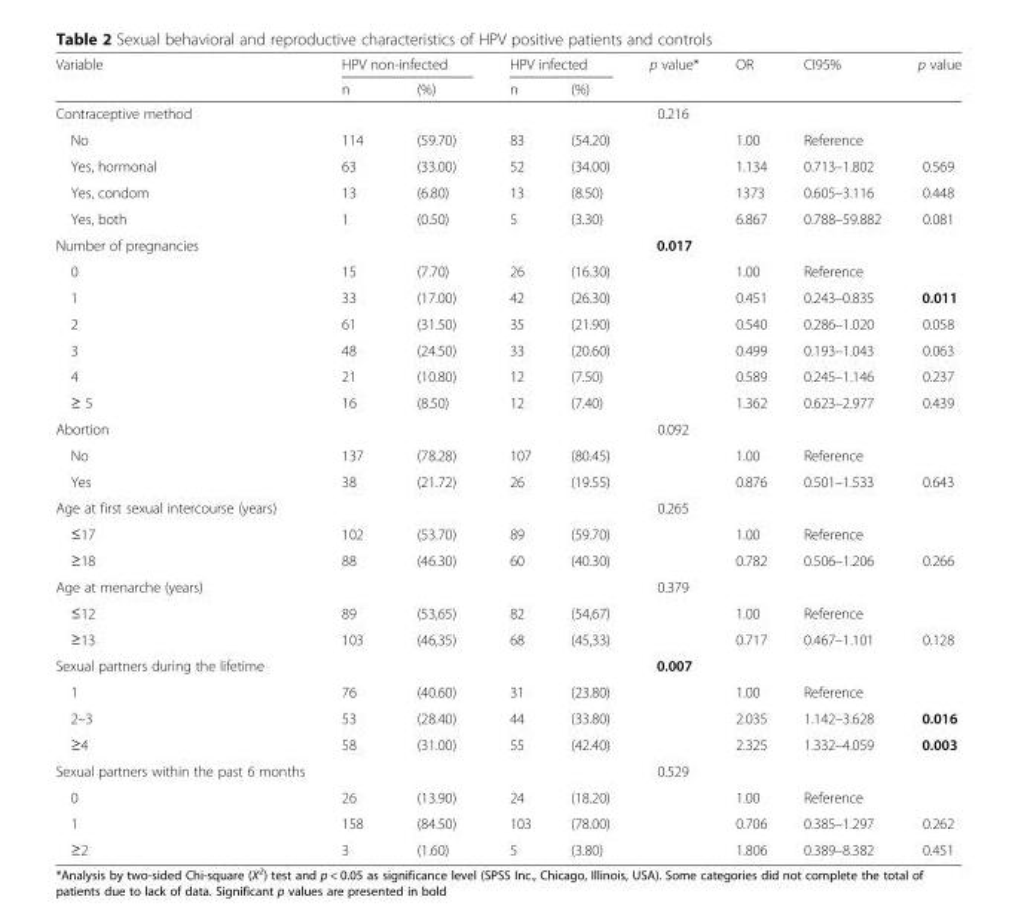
<table><thead><tr><td rowspan="2">Variable</td><td colspan="2">HPV non-infected</td><td colspan="2">HPV infected</td><td rowspan="2">p value*</td><td rowspan="2">OR</td><td rowspan="2">CI95%</td><td rowspan="2">p value</td></tr><tr><td>n</td><td>(%)</td><td>n</td><td>(%)</td></tr></thead><tbody><tr><td>Contraceptive method</td><td></td><td></td><td></td><td></td><td>0.216</td><td></td><td></td><td></td></tr><tr><td>No</td><td>114</td><td>(59.70)</td><td>83</td><td>(54.20)</td><td></td><td>1.00</td><td>Reference</td><td></td></tr><tr><td>Yes, hormonal</td><td>63</td><td>(33.00)</td><td>52</td><td>(34.00)</td><td></td><td>1.134</td><td>0.713–1.802</td><td>0.569</td></tr><tr><td>Yes, condom</td><td>13</td><td>(6.80)</td><td>13</td><td>(8.50)</td><td></td><td>1373</td><td>0.605–3.116</td><td>0.448</td></tr><tr><td>Yes, both</td><td>1</td><td>(0.50)</td><td>5</td><td>(3.30)</td><td></td><td>6.867</td><td>0.788–59.882</td><td>0.081</td></tr><tr><td>Number of pregnancies</td><td></td><td></td><td></td><td></td><td>0.017</td><td></td><td></td><td></td></tr><tr><td>0</td><td>15</td><td>(7.70)</td><td>26</td><td>(16.30)</td><td></td><td>1.00</td><td>Reference</td><td></td></tr><tr><td>1</td><td>33</td><td>(17.00)</td><td>42</td><td>(26.30)</td><td></td><td>0.451</td><td>0.243–0.835</td><td>0.011</td></tr><tr><td>2</td><td>61</td><td>(31.50)</td><td>35</td><td>(21.90)</td><td></td><td>0.540</td><td>0.286–1.020</td><td>0.058</td></tr><tr><td>3</td><td>48</td><td>(24.50)</td><td>33</td><td>(20.60)</td><td></td><td>0.499</td><td>0.193–1.043</td><td>0.063</td></tr><tr><td>4</td><td>21</td><td>(10.80)</td><td>12</td><td>(7.50)</td><td></td><td>0.589</td><td>0.245–1.146</td><td>0.237</td></tr><tr><td>≥ 5</td><td>16</td><td>(8.50)</td><td>12</td><td>(7.40)</td><td></td><td>1.362</td><td>0.623–2.977</td><td>0.439</td></tr><tr><td>Abortion</td><td></td><td></td><td></td><td></td><td>0.092</td><td></td><td></td><td></td></tr><tr><td>No</td><td>137</td><td>(78.28)</td><td>107</td><td>(80.45)</td><td></td><td>1.00</td><td>Reference</td><td></td></tr><tr><td>Yes</td><td>38</td><td>(21.72)</td><td>26</td><td>(19.55)</td><td></td><td>0.876</td><td>0.501–1.533</td><td>0.643</td></tr><tr><td>Age at first sexual intercourse (years)</td><td></td><td></td><td></td><td></td><td>0.265</td><td></td><td></td><td></td></tr><tr><td>≤17</td><td>102</td><td>(53.70)</td><td>89</td><td>(59.70)</td><td></td><td>1.00</td><td>Reference</td><td></td></tr><tr><td>≥18</td><td>88</td><td>(46.30)</td><td>60</td><td>(40.30)</td><td></td><td>0.782</td><td>0.506–1.206</td><td>0.266</td></tr><tr><td>Age at menarche (years)</td><td></td><td></td><td></td><td></td><td>0.379</td><td></td><td></td><td></td></tr><tr><td>≤12</td><td>89</td><td>(53,65)</td><td>82</td><td>(54,67)</td><td></td><td>1.00</td><td>Reference</td><td></td></tr><tr><td>≥13</td><td>103</td><td>(46,35)</td><td>68</td><td>(45,33)</td><td></td><td>0.717</td><td>0.467–1.101</td><td>0.128</td></tr><tr><td>Sexual partners during the lifetime</td><td></td><td></td><td></td><td></td><td>0.007</td><td></td><td></td><td></td></tr><tr><td>1</td><td>76</td><td>(40.60)</td><td>31</td><td>(23.80)</td><td></td><td>1.00</td><td>Reference</td><td></td></tr><tr><td>2–3</td><td>53</td><td>(28.40)</td><td>44</td><td>(33.80)</td><td></td><td>2.035</td><td>1.142–3.628</td><td>0.016</td></tr><tr><td>≥4</td><td>58</td><td>(31.00)</td><td>55</td><td>(42.40)</td><td></td><td>2.325</td><td>1.332–4.059</td><td>0.003</td></tr><tr><td>Sexual partners within the past 6 months</td><td></td><td></td><td></td><td></td><td>0.529</td><td></td><td></td><td></td></tr><tr><td>0</td><td>26</td><td>(13.90)</td><td>24</td><td>(18.20)</td><td></td><td>1.00</td><td>Reference</td><td></td></tr><tr><td>1</td><td>158</td><td>(84.50)</td><td>103</td><td>(78.00)</td><td></td><td>0.706</td><td>0.385–1.297</td><td>0.262</td></tr><tr><td>≥2</td><td>3</td><td>(1.60)</td><td>5</td><td>(3.80)</td><td></td><td>1.806</td><td>0.389–8.382</td><td>0.451</td></tr></tbody></table>